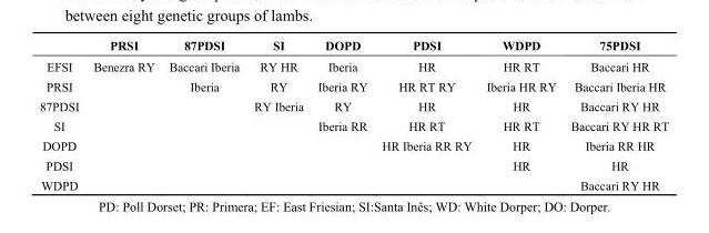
<table><thead><tr><td></td><td>PRSI</td><td>87PDSI</td><td>SI</td><td>DOPD</td><td>PDSI</td><td>WDPD</td><td>75PDSI</td></tr></thead><tbody><tr><td>EFSI</td><td>Benezra RY</td><td>Baccari Iberia</td><td>RY HR</td><td>Iberia</td><td>HR</td><td>HR RT</td><td>Baccari HR</td></tr><tr><td>PRSI</td><td></td><td>Iberia</td><td>RY</td><td>Iberia RY</td><td>HR RT RY</td><td>Iberia HR RY</td><td>Baccari Iberia HR</td></tr><tr><td>87PDSI</td><td></td><td></td><td>RY Iberia</td><td>RY</td><td>HR</td><td>HR</td><td>Baccari RY HR</td></tr><tr><td>SI</td><td></td><td></td><td></td><td>Iberia RR</td><td>HR RT</td><td>HR RT</td><td>Baccari RY HR RT</td></tr><tr><td>DOPD</td><td></td><td></td><td></td><td></td><td>HR Iberia RR RY</td><td>HR</td><td>Iberia RR HR</td></tr><tr><td>PDSI</td><td></td><td></td><td></td><td></td><td></td><td>HR</td><td>HR</td></tr><tr><td>WDPD</td><td></td><td></td><td></td><td></td><td></td><td></td><td>Baccari RY HR</td></tr></tbody></table>